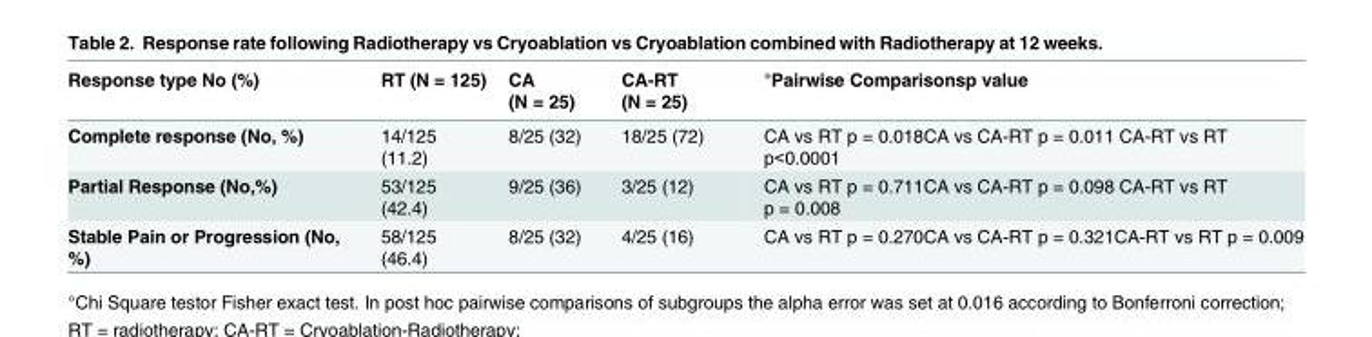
<table><thead><tr><td>Response type No (%)</td><td>RT (N = 125)</td><td>CA (N = 25)</td><td>CA-RT (N = 25)</td><td>°Pairwise Comparisonsp value</td></tr></thead><tbody><tr><td>Complete response (No, %)</td><td>14/125 (11.2)</td><td>8/25 (32)</td><td>18/25 (72)</td><td>CA vs RT p = 0.018CA vs CA-RT p = 0.011 CA-RT vs RT p&lt;0.0001</td></tr><tr><td>Partial Response (No,%)</td><td>53/125 (42.4)</td><td>9/25 (36)</td><td>3/25 (12)</td><td>CA vs RT p = 0.711CA vs CA-RT p = 0.098 CA-RT vs RT p = 0.008</td></tr><tr><td>Stable Pain or Progression (No, %)</td><td>58/125 (46.4)</td><td>8/25 (32)</td><td>4/25 (16)</td><td>CA vs RT p = 0.270CA vs CA-RT p = 0.321CA-RT vs RT p = 0.009</td></tr></tbody></table>